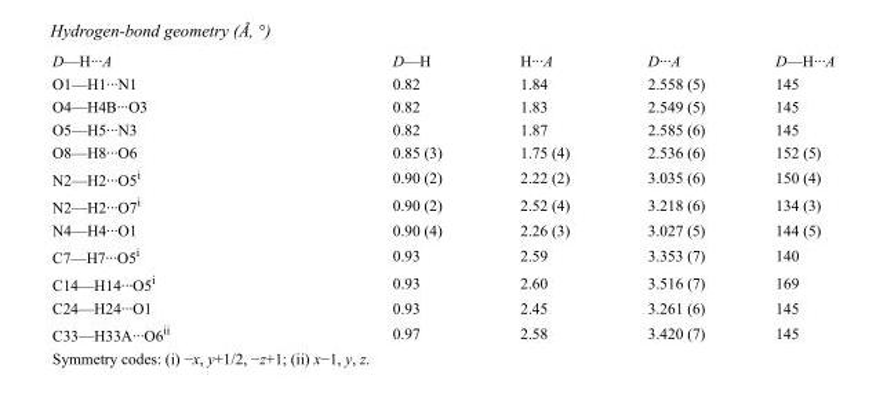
<table><tbody><tr><td>D—H···A</td><td>D—H</td><td>H···A</td><td>D···A</td><td>D—H···A</td></tr><tr><td>O1—H1···N1</td><td>0.82</td><td>1.84</td><td>2.558 (5)</td><td>145</td></tr><tr><td>O4—H4B···O3</td><td>0.82</td><td>1.83</td><td>2.549 (5)</td><td>145</td></tr><tr><td>O5—H5···N3</td><td>0.82</td><td>1.87</td><td>2.585 (6)</td><td>145</td></tr><tr><td>O8—H8···O6</td><td>0.85 (3)</td><td>1.75 (4)</td><td>2.536 (6)</td><td>152 (5)</td></tr><tr><td>N2—H2···O5<sup>i</sup></td><td>0.90 (2)</td><td>2.22 (2)</td><td>3.035 (6)</td><td>150 (4)</td></tr><tr><td>N2—H2···O7<sup>i</sup></td><td>0.90 (2)</td><td>2.52 (4)</td><td>3.218 (6)</td><td>134 (3)</td></tr><tr><td>N4—H4···O1</td><td>0.90 (4)</td><td>2.26 (3)</td><td>3.027 (5)</td><td>144 (5)</td></tr><tr><td>C7—H7···O5<sup>i</sup></td><td>0.93</td><td>2.59</td><td>3.353 (7)</td><td>140</td></tr><tr><td>C14—H14···O5<sup>i</sup></td><td>0.93</td><td>2.60</td><td>3.516 (7)</td><td>169</td></tr><tr><td>C24—H24···O1</td><td>0.93</td><td>2.45</td><td>3.261 (6)</td><td>145</td></tr><tr><td>C33—H33A···O6<sup>ii</sup></td><td>0.97</td><td>2.58</td><td>3.420 (7)</td><td>145</td></tr></tbody></table>